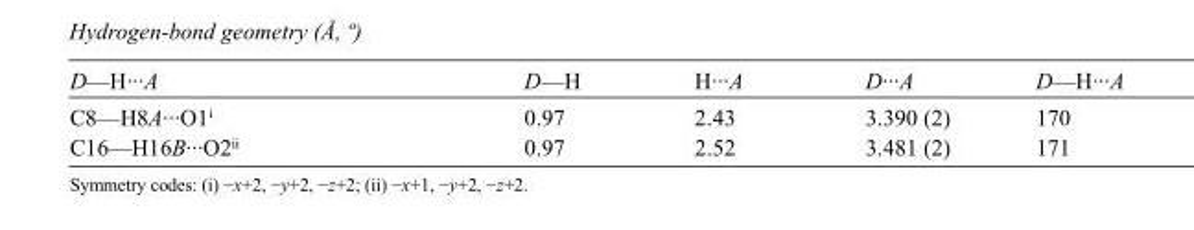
<table><tbody><tr><td>D—H···A</td><td>D—H</td><td>H···A</td><td>D···A</td><td>D—H···A</td></tr><tr><td>C8—H8A···O1<sup>i</sup></td><td>0.97</td><td>2.43</td><td>3.390 (2)</td><td>170</td></tr><tr><td>C16—H16B···O2<sup>ii</sup></td><td>0.97</td><td>2.52</td><td>3.481 (2)</td><td>171</td></tr></tbody></table>